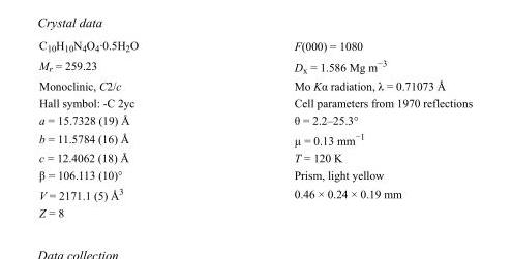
<table><tbody><tr><td>C<sub>10</sub>H<sub>10</sub>N<sub>4</sub>O<sub>4</sub>·0.5H<sub>2</sub>O</td><td>F(000) = 1080</td></tr><tr><td>M<sub>r</sub> = 259.23</td><td>D<sub>x</sub> = 1.586 Mg m<sup>−3</sup></td></tr><tr><td>Monoclinic, C2/c</td><td>Mo Kα radiation, λ = 0.71073 Å</td></tr><tr><td>Hall symbol: -C 2yc</td><td>Cell parameters from 1970 reflections</td></tr><tr><td>a = 15.7328 (19) Å</td><td>θ = 2.2–25.3°</td></tr><tr><td>b = 11.5784 (16) Å</td><td>µ = 0.13 mm<sup>−1</sup></td></tr><tr><td>c = 12.4062 (18) Å</td><td>T = 120 K</td></tr><tr><td>β = 106.113 (10)°</td><td>Prism, light yellow</td></tr><tr><td>V = 2171.1 (5) Å<sup>3</sup></td><td>0.46 × 0.24 × 0.19 mm</td></tr><tr><td>Z = 8</td><td></td></tr></tbody></table>